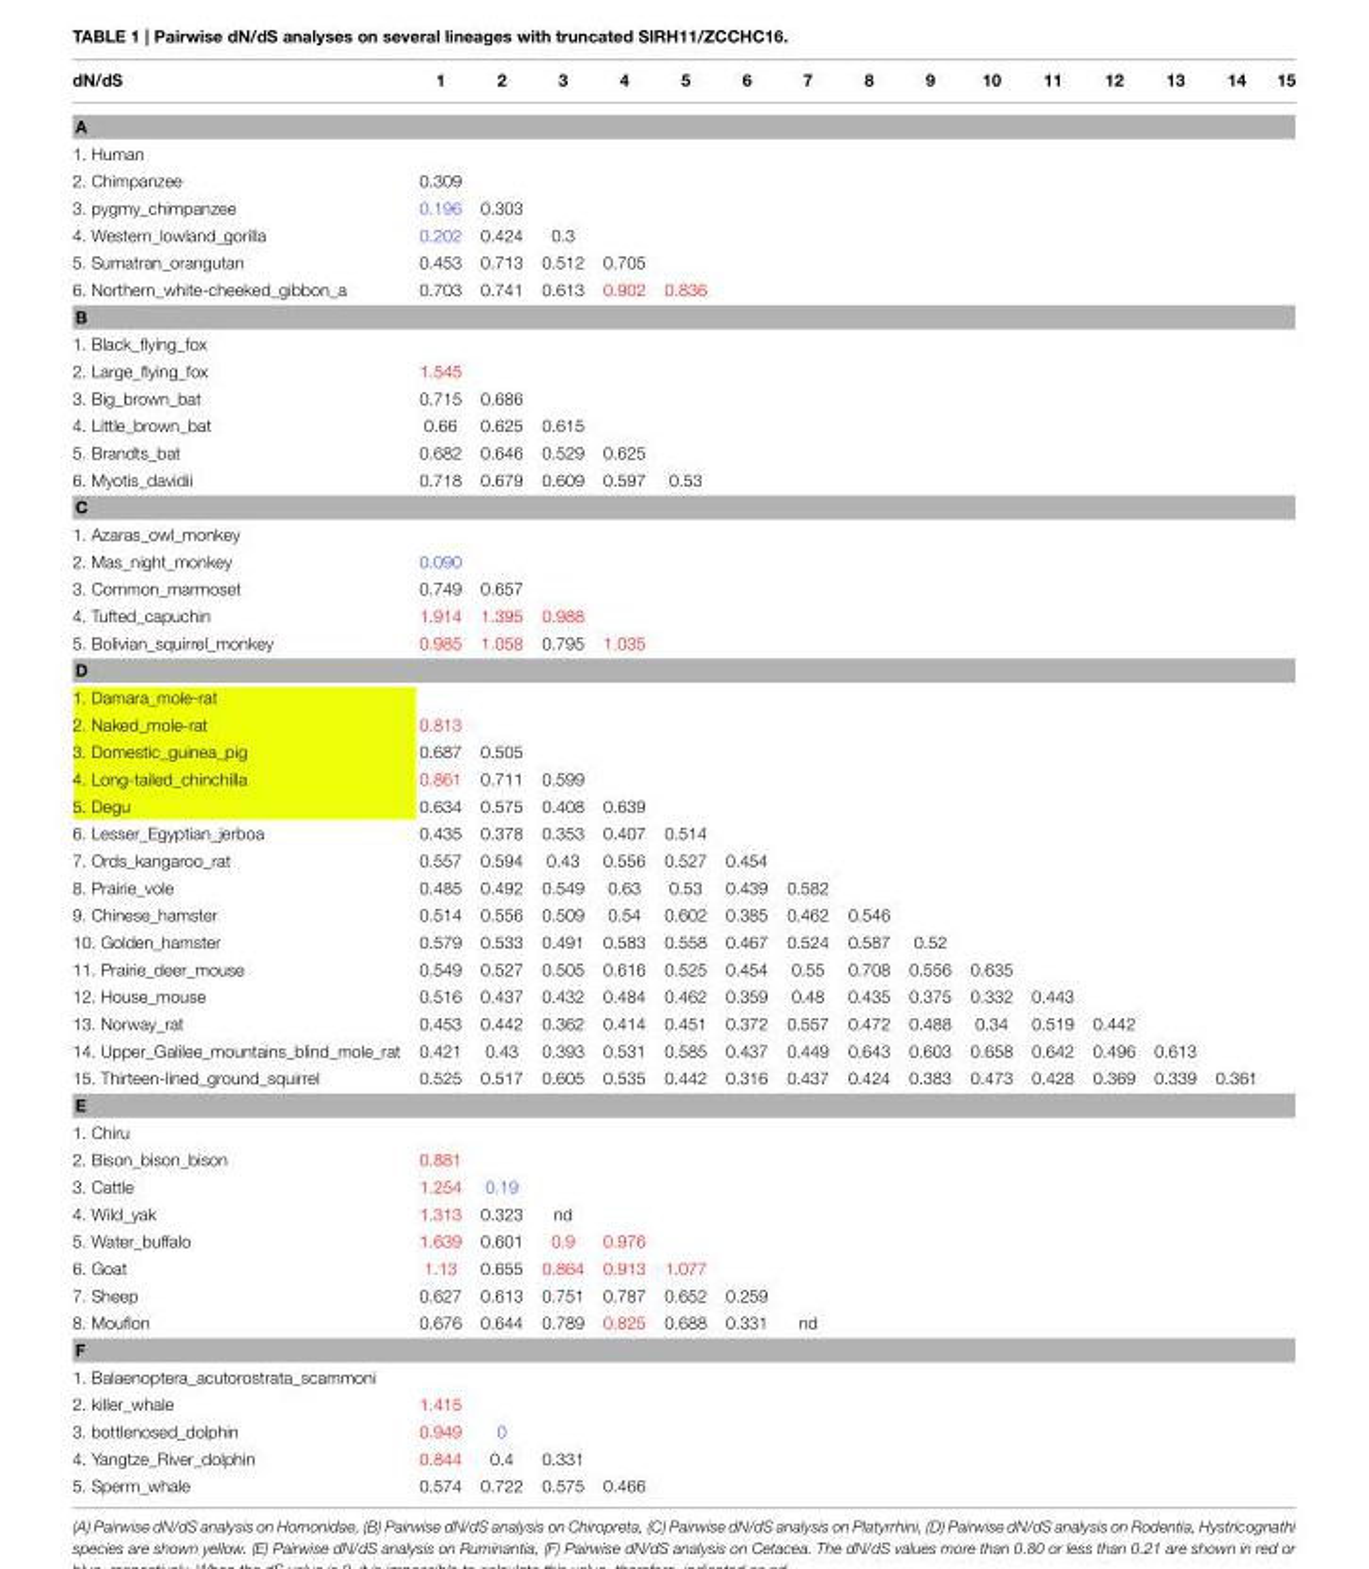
<table><thead><tr><td>dN/dS</td><td>1</td><td>2</td><td>3</td><td>4</td><td>5</td><td>6</td><td>7</td><td>8</td><td>9</td><td>10</td><td>11</td><td>12</td><td>13</td><td>14</td><td>15</td></tr></thead><tbody><tr><td colspan="16">A</td></tr><tr><td colspan="16">1. Human</td></tr><tr><td>2. Chimpanzee</td><td>0.309</td><td></td><td></td><td></td><td></td><td></td><td></td><td></td><td></td><td></td><td></td><td></td><td></td><td></td><td></td></tr><tr><td>3. pygmy_chimpanzee</td><td>0.196</td><td>0.303</td><td></td><td></td><td></td><td></td><td></td><td></td><td></td><td></td><td></td><td></td><td></td><td></td><td></td></tr><tr><td>4. Western_lowland_gorilla</td><td>0.202</td><td>0.424</td><td>0.3</td><td></td><td></td><td></td><td></td><td></td><td></td><td></td><td></td><td></td><td></td><td></td><td></td></tr><tr><td>5. Sumatran_orangutan</td><td>0.453</td><td>0.713</td><td>0.512</td><td>0.705</td><td></td><td></td><td></td><td></td><td></td><td></td><td></td><td></td><td></td><td></td><td></td></tr><tr><td>6. Northern_white-cheeked_gibbon_a</td><td>0.703</td><td>0.741</td><td>0.613</td><td>0.902</td><td>0.836</td><td></td><td></td><td></td><td></td><td></td><td></td><td></td><td></td><td></td><td></td></tr><tr><td colspan="16">B</td></tr><tr><td colspan="16">1. Black_flying_fox</td></tr><tr><td>2. Large_flying_fox</td><td>1.545</td><td></td><td></td><td></td><td></td><td></td><td></td><td></td><td></td><td></td><td></td><td></td><td></td><td></td><td></td></tr><tr><td>3. Big_brown_bat</td><td>0.715</td><td>0.686</td><td></td><td></td><td></td><td></td><td></td><td></td><td></td><td></td><td></td><td></td><td></td><td></td><td></td></tr><tr><td>4. Little_brown_bat</td><td>0.66</td><td>0.625</td><td>0.615</td><td></td><td></td><td></td><td></td><td></td><td></td><td></td><td></td><td></td><td></td><td></td><td></td></tr><tr><td>5. Brandts_bat</td><td>0.682</td><td>0.646</td><td>0.529</td><td>0.625</td><td></td><td></td><td></td><td></td><td></td><td></td><td></td><td></td><td></td><td></td><td></td></tr><tr><td>6. Myotis_davidii</td><td>0.718</td><td>0.679</td><td>0.609</td><td>0.597</td><td>0.53</td><td></td><td></td><td></td><td></td><td></td><td></td><td></td><td></td><td></td><td></td></tr><tr><td colspan="16">C</td></tr><tr><td colspan="16">1. Azaras_owl_monkey</td></tr><tr><td>2. Mas_night_monkey</td><td>0.090</td><td></td><td></td><td></td><td></td><td></td><td></td><td></td><td></td><td></td><td></td><td></td><td></td><td></td><td></td></tr><tr><td>3. Common_marmoset</td><td>0.749</td><td>0.657</td><td></td><td></td><td></td><td></td><td></td><td></td><td></td><td></td><td></td><td></td><td></td><td></td><td></td></tr><tr><td>4. Tufted_capuchin</td><td>1.914</td><td>1.395</td><td>0.988</td><td></td><td></td><td></td><td></td><td></td><td></td><td></td><td></td><td></td><td></td><td></td><td></td></tr><tr><td>5. Bolivian_squirrel_monkey</td><td>0.985</td><td>1.058</td><td>0.795</td><td>1.035</td><td></td><td></td><td></td><td></td><td></td><td></td><td></td><td></td><td></td><td></td><td></td></tr><tr><td colspan="16">D</td></tr><tr><td colspan="16">1. Damara_mole-rat</td></tr><tr><td>2. Naked_mole-rat</td><td>0.813</td><td></td><td></td><td></td><td></td><td></td><td></td><td></td><td></td><td></td><td></td><td></td><td></td><td></td><td></td></tr><tr><td>3. Domestic_guinea_pig</td><td>0.687</td><td>0.505</td><td></td><td></td><td></td><td></td><td></td><td></td><td></td><td></td><td></td><td></td><td></td><td></td><td></td></tr><tr><td>4. Long-tailed_chinchilla</td><td>0.861</td><td>0.711</td><td>0.599</td><td></td><td></td><td></td><td></td><td></td><td></td><td></td><td></td><td></td><td></td><td></td><td></td></tr><tr><td>5. Degu</td><td>0.634</td><td>0.575</td><td>0.408</td><td>0.639</td><td></td><td></td><td></td><td></td><td></td><td></td><td></td><td></td><td></td><td></td><td></td></tr><tr><td>6. Lesser_Egyptian_jerboa</td><td>0.435</td><td>0.378</td><td>0.353</td><td>0.407</td><td>0.514</td><td></td><td></td><td></td><td></td><td></td><td></td><td></td><td></td><td></td><td></td></tr><tr><td>7. Ords_kangaroo_rat</td><td>0.557</td><td>0.594</td><td>0.43</td><td>0.556</td><td>0.527</td><td>0.454</td><td></td><td></td><td></td><td></td><td></td><td></td><td></td><td></td><td></td></tr><tr><td>8. Prairie_vole</td><td>0.485</td><td>0.492</td><td>0.549</td><td>0.63</td><td>0.53</td><td>0.439</td><td>0.582</td><td></td><td></td><td></td><td></td><td></td><td></td><td></td><td></td></tr><tr><td>9. Chinese_hamster</td><td>0.514</td><td>0.556</td><td>0.509</td><td>0.54</td><td>0.602</td><td>0.385</td><td>0.462</td><td>0.546</td><td></td><td></td><td></td><td></td><td></td><td></td><td></td></tr><tr><td>10. Golden_hamster</td><td>0.579</td><td>0.533</td><td>0.491</td><td>0.583</td><td>0.558</td><td>0.467</td><td>0.524</td><td>0.587</td><td>0.52</td><td></td><td></td><td></td><td></td><td></td><td></td></tr><tr><td>11. Prairie_deer_mouse</td><td>0.549</td><td>0.527</td><td>0.505</td><td>0.616</td><td>0.525</td><td>0.454</td><td>0.55</td><td>0.708</td><td>0.556</td><td>0.635</td><td></td><td></td><td></td><td></td><td></td></tr><tr><td>12. House_mouse</td><td>0.516</td><td>0.437</td><td>0.432</td><td>0.484</td><td>0.462</td><td>0.359</td><td>0.48</td><td>0.435</td><td>0.375</td><td>0.332</td><td>0.443</td><td></td><td></td><td></td><td></td></tr><tr><td>13. Norway_rat</td><td>0.453</td><td>0.442</td><td>0.362</td><td>0.414</td><td>0.451</td><td>0.372</td><td>0.557</td><td>0.472</td><td>0.488</td><td>0.34</td><td>0.519</td><td>0.442</td><td></td><td></td><td></td></tr><tr><td>14. Upper_Galilee_mountains_blind_mole_rat</td><td>0.421</td><td>0.43</td><td>0.393</td><td>0.531</td><td>0.585</td><td>0.437</td><td>0.449</td><td>0.643</td><td>0.603</td><td>0.658</td><td>0.642</td><td>0.496</td><td>0.613</td><td></td><td></td></tr><tr><td>15. Thirteen-lined_ground_squirrel</td><td>0.525</td><td>0.517</td><td>0.605</td><td>0.535</td><td>0.442</td><td>0.316</td><td>0.437</td><td>0.424</td><td>0.383</td><td>0.473</td><td>0.428</td><td>0.369</td><td>0.339</td><td>0.361</td><td></td></tr><tr><td colspan="16">E</td></tr><tr><td colspan="16">1. Chiru</td></tr><tr><td>2. Bison_bison_bison</td><td>0.881</td><td></td><td></td><td></td><td></td><td></td><td></td><td></td><td></td><td></td><td></td><td></td><td></td><td></td><td></td></tr><tr><td>3. Cattle</td><td>1.254</td><td>0.19</td><td></td><td></td><td></td><td></td><td></td><td></td><td></td><td></td><td></td><td></td><td></td><td></td><td></td></tr><tr><td>4. Wild_yak</td><td>1.313</td><td>0.323</td><td>nd</td><td></td><td></td><td></td><td></td><td></td><td></td><td></td><td></td><td></td><td></td><td></td><td></td></tr><tr><td>5. Water_buffalo</td><td>1.639</td><td>0.601</td><td>0.9</td><td>0.976</td><td></td><td></td><td></td><td></td><td></td><td></td><td></td><td></td><td></td><td></td><td></td></tr><tr><td>6. Goat</td><td>1.13</td><td>0.655</td><td>0.864</td><td>0.913</td><td>1.077</td><td></td><td></td><td></td><td></td><td></td><td></td><td></td><td></td><td></td><td></td></tr><tr><td>7. Sheep</td><td>0.627</td><td>0.613</td><td>0.751</td><td>0.787</td><td>0.652</td><td>0.259</td><td></td><td></td><td></td><td></td><td></td><td></td><td></td><td></td><td></td></tr><tr><td>8. Mouflon</td><td>0.676</td><td>0.644</td><td>0.789</td><td>0.825</td><td>0.688</td><td>0.331</td><td>nd</td><td></td><td></td><td></td><td></td><td></td><td></td><td></td><td></td></tr><tr><td colspan="16">F</td></tr><tr><td colspan="16">1. Balaenoptera_acutorostrata_scammoni</td></tr><tr><td>2. killer_whale</td><td>1.415</td><td></td><td></td><td></td><td></td><td></td><td></td><td></td><td></td><td></td><td></td><td></td><td></td><td></td><td></td></tr><tr><td>3. bottlenosed_dolphin</td><td>0.949</td><td>0</td><td></td><td></td><td></td><td></td><td></td><td></td><td></td><td></td><td></td><td></td><td></td><td></td><td></td></tr><tr><td>4. Yangtze_River_dolphin</td><td>0.844</td><td>0.4</td><td>0.331</td><td></td><td></td><td></td><td></td><td></td><td></td><td></td><td></td><td></td><td></td><td></td><td></td></tr><tr><td>5. Sperm_whale</td><td>0.574</td><td>0.722</td><td>0.575</td><td>0.466</td><td></td><td></td><td></td><td></td><td></td><td></td><td></td><td></td><td></td><td></td><td></td></tr></tbody></table>